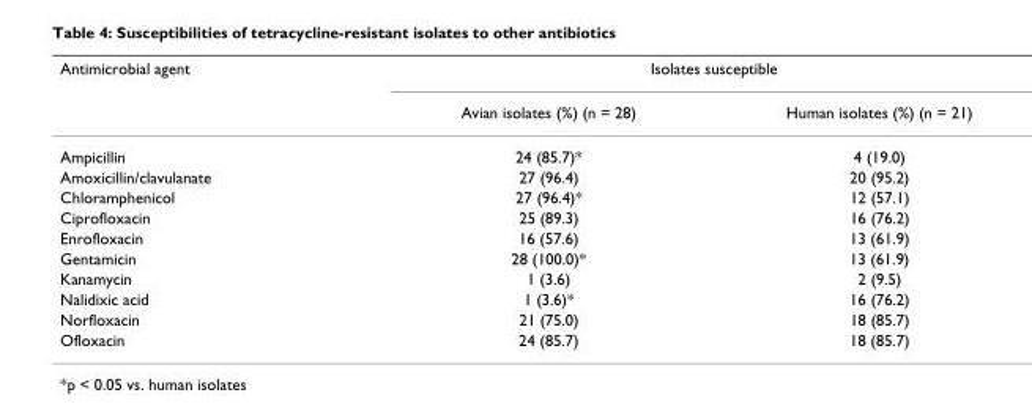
<table><thead><tr><td rowspan="2">Antimicrobial agent</td><td colspan="2">Isolates susceptible</td></tr><tr><td>Avian isolates (%) (n = 28)</td><td>Human isolates (%) (n = 21)</td></tr></thead><tbody><tr><td>Ampicillin</td><td>24 (85.7)*</td><td>4 (19.0)</td></tr><tr><td>Amoxicillin/clavulanate</td><td>27 (96.4)</td><td>20 (95.2)</td></tr><tr><td>Chloramphenicol</td><td>27 (96.4)*</td><td>12 (57.1)</td></tr><tr><td>Ciprofloxacin</td><td>25 (89.3)</td><td>16 (76.2)</td></tr><tr><td>Enrofloxacin</td><td>16 (57.6)</td><td>13 (61.9)</td></tr><tr><td>Gentamicin</td><td>28 (100.0)*</td><td>13 (61.9)</td></tr><tr><td>Kanamycin</td><td>1 (3.6)</td><td>2 (9.5)</td></tr><tr><td>Nalidixic acid</td><td>1 (3.6)*</td><td>16 (76.2)</td></tr><tr><td>Norfloxacin</td><td>21 (75.0)</td><td>18 (85.7)</td></tr><tr><td>Ofloxacin</td><td>24 (85.7)</td><td>18 (85.7)</td></tr></tbody></table>